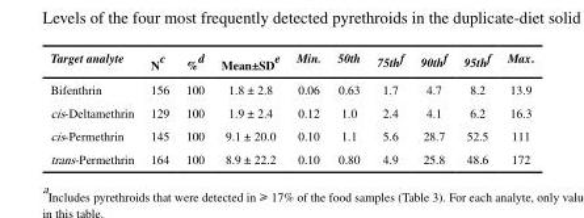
<table><thead><tr><td>Target analyte</td><td>N<sup>c</sup></td><td>%<sup>d</sup></td><td>Mean±SD<sup>e</sup></td><td>Min.</td><td>50th</td><td>75th<sup>f</sup></td><td>90th<sup>f</sup></td><td>95th<sup>f</sup></td><td>Max.</td></tr></thead><tbody><tr><td>Bifenthrin</td><td>156</td><td>100</td><td>1.8 ± 2.8</td><td>0.06</td><td>0.63</td><td>1.7</td><td>4.7</td><td>8.2</td><td>13.9</td></tr><tr><td>cis-Deltamethrin</td><td>129</td><td>100</td><td>1.9 ± 2.4</td><td>0.12</td><td>1.0</td><td>2.4</td><td>4.1</td><td>6.2</td><td>16.3</td></tr><tr><td>cis-Permethrin</td><td>145</td><td>100</td><td>9.1 ± 20.0</td><td>0.10</td><td>1.1</td><td>5.6</td><td>28.7</td><td>52.5</td><td>111</td></tr><tr><td>trans-Permethrin</td><td>164</td><td>100</td><td>8.9 ± 22.2</td><td>0.10</td><td>0.80</td><td>4.9</td><td>25.8</td><td>48.6</td><td>172</td></tr></tbody></table>